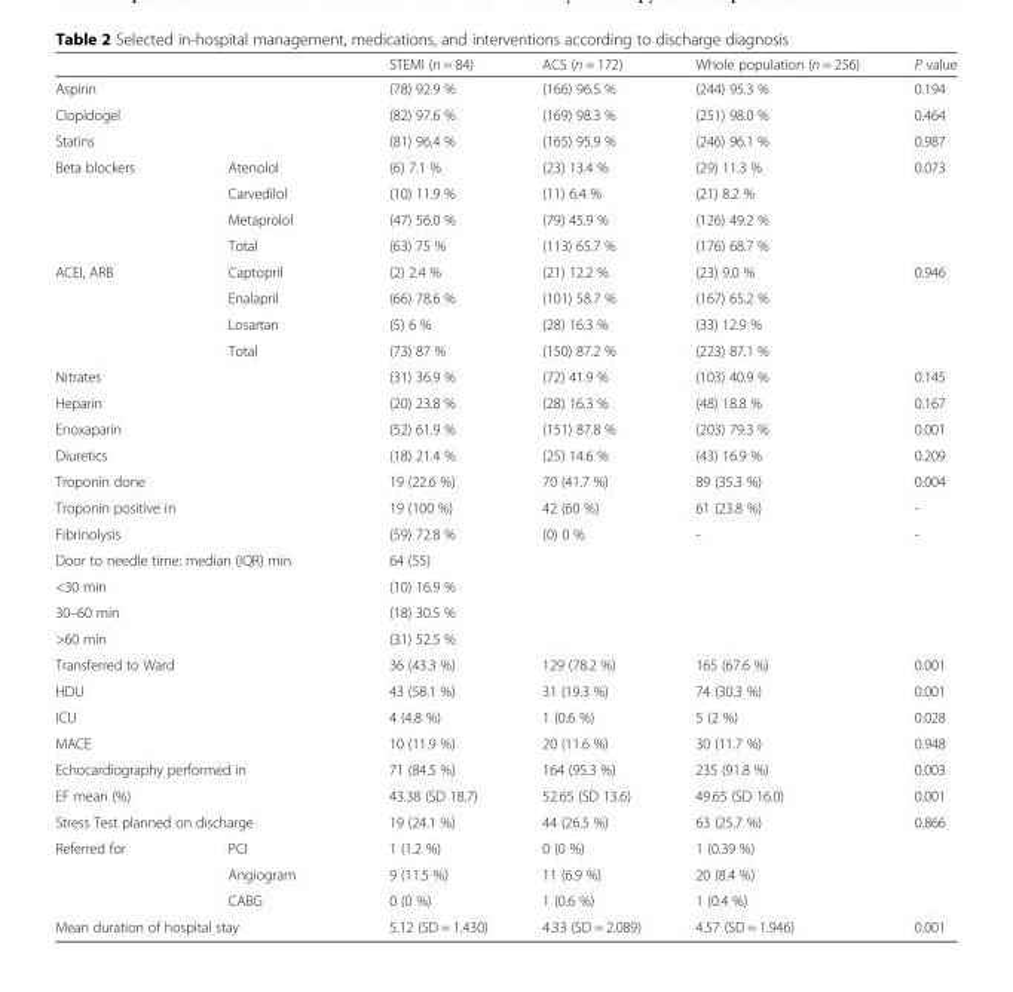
<table><thead><tr><td></td><td></td><td>STEMI (n = 84)</td><td>ACS (n = 172)</td><td>Whole population (n = 256)</td><td>P value</td></tr></thead><tbody><tr><td colspan="2">Aspirin</td><td>(78) 92.9 %</td><td>(166) 96.5 %</td><td>(244) 95.3 %</td><td>0.194</td></tr><tr><td colspan="2">Clopidogel</td><td>(82) 97.6 %</td><td>(169) 98.3 %</td><td>(251) 98.0 %</td><td>0.464</td></tr><tr><td colspan="2">Statins</td><td>(81) 96.4 %</td><td>(165) 95.9 %</td><td>(246) 96.1 %</td><td>0.987</td></tr><tr><td rowspan="4">Beta blockers</td><td>Atenolol</td><td>(6) 7.1 %</td><td>(23) 13.4 %</td><td>(29) 11.3 %</td><td rowspan="4">0.073</td></tr><tr><td>Carvedilol</td><td>(10) 11.9 %</td><td>(11) 6.4 %</td><td>(21) 8.2 %</td></tr><tr><td>Metaprolol</td><td>(47) 56.0 %</td><td>(79) 45.9 %</td><td>(126) 49.2 %</td></tr><tr><td>Total</td><td>(63) 75 %</td><td>(113) 65.7 %</td><td>(176) 68.7 %</td></tr><tr><td rowspan="4">ACEI, ARB</td><td>Captopril</td><td>(2) 2.4 %</td><td>(21) 12.2 %</td><td>(23) 9.0 %</td><td rowspan="4">0.946</td></tr><tr><td>Enalapril</td><td>(66) 78.6 %</td><td>(101) 58.7 %</td><td>(167) 65.2 %</td></tr><tr><td>Losartan</td><td>(5) 6 %</td><td>(28) 16.3 %</td><td>(33) 12.9 %</td></tr><tr><td>Total</td><td>(73) 87 %</td><td>(150) 87.2 %</td><td>(223) 87.1 %</td></tr><tr><td colspan="2">Nitrates</td><td>(31) 36.9 %</td><td>(72) 41.9 %</td><td>(103) 40.9 %</td><td>0.145</td></tr><tr><td colspan="2">Heparin</td><td>(20) 23.8 %</td><td>(28) 16.3 %</td><td>(48) 18.8 %</td><td>0.167</td></tr><tr><td colspan="2">Enoxaparin</td><td>(52) 61.9 %</td><td>(151) 87.8 %</td><td>(203) 79.3 %</td><td>0.001</td></tr><tr><td colspan="2">Diuretics</td><td>(18) 21.4 %</td><td>(25) 14.6 %</td><td>(43) 16.9 %</td><td>0.209</td></tr><tr><td colspan="2">Troponin done</td><td>19 (22.6 %)</td><td>70 (41.7 %)</td><td>89 (35.3 %)</td><td>0.004</td></tr><tr><td colspan="2">Troponin positive in</td><td>19 (100 %)</td><td>42 (60 %)</td><td>61 (23.8 %)</td><td>-</td></tr><tr><td colspan="2">Fibrinolysis</td><td>(59) 72.8 %</td><td>(0) 0 %</td><td>-</td><td>-</td></tr><tr><td colspan="2">Door to needle time: median (IQR) min</td><td>64 (55)</td><td></td><td></td><td></td></tr><tr><td colspan="2">&lt;30 min</td><td>(10) 16.9 %</td><td></td><td></td><td></td></tr><tr><td colspan="2">30–60 min</td><td>(18) 30.5 %</td><td></td><td></td><td></td></tr><tr><td colspan="2">&gt;60 min</td><td>(31) 52.5 %</td><td></td><td></td><td></td></tr><tr><td colspan="2">Transferred to Ward</td><td>36 (43.3 %)</td><td>129 (78.2 %)</td><td>165 (67.6 %)</td><td>0.001</td></tr><tr><td colspan="2">HDU</td><td>43 (58.1 %)</td><td>31 (19.3 %)</td><td>74 (30.3 %)</td><td>0.001</td></tr><tr><td colspan="2">ICU</td><td>4 (4.8 %)</td><td>1 (0.6 %)</td><td>5 (2 %)</td><td>0.028</td></tr><tr><td colspan="2">MACE</td><td>10 (11.9 %)</td><td>20 (11.6 %)</td><td>30 (11.7 %)</td><td>0.948</td></tr><tr><td colspan="2">Echocardiography performed in</td><td>71 (84.5 %)</td><td>164 (95.3 %)</td><td>235 (91.8 %)</td><td>0.003</td></tr><tr><td colspan="2">EF mean (%)</td><td>43.38 (SD 18.7)</td><td>52.65 (SD 13.6)</td><td>49.65 (SD 16.0)</td><td>0.001</td></tr><tr><td colspan="2">Stress Test planned on discharge</td><td>19 (24.1 %)</td><td>44 (26.5 %)</td><td>63 (25.7 %)</td><td>0.866</td></tr><tr><td rowspan="3">Referred for</td><td>PCI</td><td>1 (1.2 %)</td><td>0 (0 %)</td><td>1 (0.39 %)</td><td></td></tr><tr><td>Angiogram</td><td>9 (11.5 %)</td><td>11 (6.9 %)</td><td>20 (8.4 %)</td><td></td></tr><tr><td>CABG</td><td>0 (0 %)</td><td>1 (0.6 %)</td><td>1 (0.4 %)</td><td></td></tr><tr><td colspan="2">Mean duration of hospital stay</td><td>5.12 (SD = 1.430)</td><td>4.33 (SD = 2.089)</td><td>4.57 (SD = 1.946)</td><td>0.001</td></tr></tbody></table>